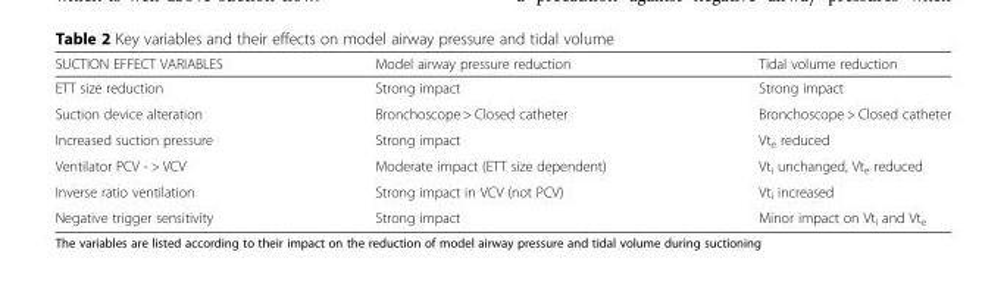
<table><thead><tr><td>SUCTION EFFECT VARIABLES</td><td>Model airway pressure reduction</td><td>Tidal volume reduction</td></tr></thead><tbody><tr><td>ETT size reduction</td><td>Strong impact</td><td>Strong impact</td></tr><tr><td>Suction device alteration</td><td>Bronchoscope &gt; Closed catheter</td><td>Bronchoscope &gt; Closed catheter</td></tr><tr><td>Increased suction pressure</td><td>Strong impact</td><td>Vt<sub>e</sub> reduced</td></tr><tr><td>Ventilator PCV - &gt; VCV</td><td>Moderate impact (ETT size dependent)</td><td>Vt<sub>i</sub> unchanged, Vt<sub>e</sub> reduced</td></tr><tr><td>Inverse ratio ventilation</td><td>Strong impact in VCV (not PCV)</td><td>Vt<sub>i</sub> increased</td></tr><tr><td>Negative trigger sensitivity</td><td>Strong impact</td><td>Minor impact on Vt<sub>i</sub> and Vt<sub>e</sub></td></tr></tbody></table>